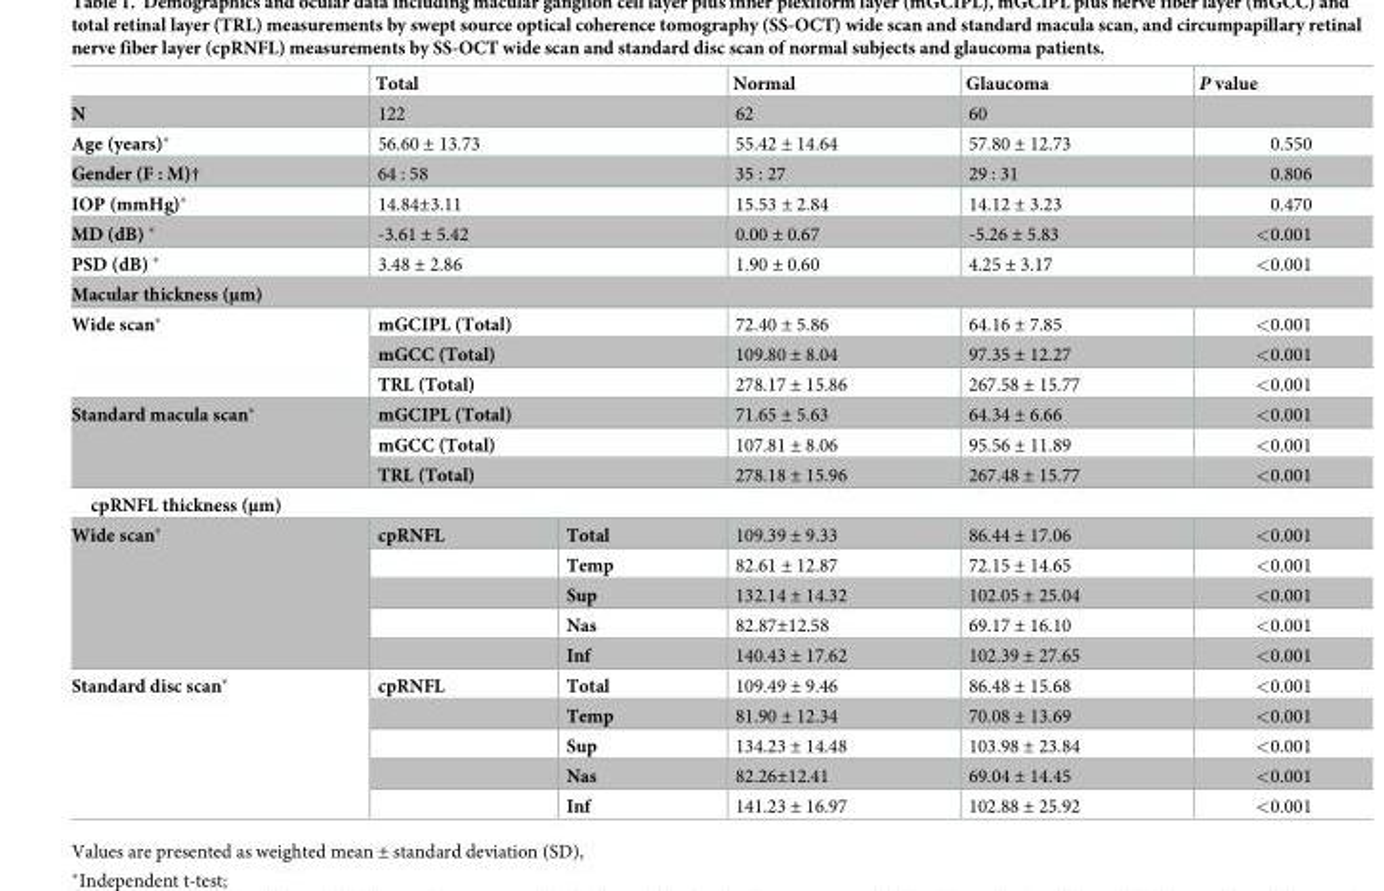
<table><thead><tr><td></td><td colspan="2">Total</td><td>Normal</td><td>Glaucoma</td><td>P value</td></tr></thead><tbody><tr><td>N</td><td colspan="2">122</td><td>62</td><td>60</td><td></td></tr><tr><td>Age (years)*</td><td colspan="2">56.60 ± 13.73</td><td>55.42 ± 14.64</td><td>57.80 ± 12.73</td><td>0.550</td></tr><tr><td>Gender (F : M)†</td><td colspan="2">64 : 58</td><td>35 : 27</td><td>29 : 31</td><td>0.806</td></tr><tr><td>IOP (mmHg)*</td><td colspan="2">14.84±3.11</td><td>15.53 ± 2.84</td><td>14.12 ± 3.23</td><td>0.470</td></tr><tr><td>MD (dB) *</td><td colspan="2">-3.61 ± 5.42</td><td>0.00 ± 0.67</td><td>-5.26 ± 5.83</td><td>&lt;0.001</td></tr><tr><td>PSD (dB) *</td><td colspan="2">3.48 ± 2.86</td><td>1.90 ± 0.60</td><td>4.25 ± 3.17</td><td>&lt;0.001</td></tr><tr><td colspan="6">Macular thickness (μm)</td></tr><tr><td rowspan="3">Wide scan*</td><td colspan="2">mGCIPL (Total)</td><td>72.40 ± 5.86</td><td>64.16 ± 7.85</td><td>&lt;0.001</td></tr><tr><td colspan="2">mGCC (Total)</td><td>109.80 ± 8.04</td><td>97.35 ± 12.27</td><td>&lt;0.001</td></tr><tr><td colspan="2">TRL (Total)</td><td>278.17 ± 15.86</td><td>267.58 ± 15.77</td><td>&lt;0.001</td></tr><tr><td rowspan="3">Standard macula scan*</td><td colspan="2">mGCIPL (Total)</td><td>71.65 ± 5.63</td><td>64.34 ± 6.66</td><td>&lt;0.001</td></tr><tr><td colspan="2">mGCC (Total)</td><td>107.81 ± 8.06</td><td>95.56 ± 11.89</td><td>&lt;0.001</td></tr><tr><td colspan="2">TRL (Total)</td><td>278.18 ± 15.96</td><td>267.48 ± 15.77</td><td>&lt;0.001</td></tr><tr><td colspan="6">cpRNFL thickness (μm)</td></tr><tr><td rowspan="5">Wide scan*</td><td>cpRNFL</td><td>Total</td><td>109.39 ± 9.33</td><td>86.44 ± 17.06</td><td>&lt;0.001</td></tr><tr><td></td><td>Temp</td><td>82.61 ± 12.87</td><td>72.15 ± 14.65</td><td>&lt;0.001</td></tr><tr><td></td><td>Sup</td><td>132.14 ± 14.32</td><td>102.05 ± 25.04</td><td>&lt;0.001</td></tr><tr><td></td><td>Nas</td><td>82.87±12.58</td><td>69.17 ± 16.10</td><td>&lt;0.001</td></tr><tr><td></td><td>Inf</td><td>140.43 ± 17.62</td><td>102.39 ± 27.65</td><td>&lt;0.001</td></tr><tr><td rowspan="5">Standard disc scan*</td><td>cpRNFL</td><td>Total</td><td>109.49 ± 9.46</td><td>86.48 ± 15.68</td><td>&lt;0.001</td></tr><tr><td></td><td>Temp</td><td>81.90 ± 12.34</td><td>70.08 ± 13.69</td><td>&lt;0.001</td></tr><tr><td></td><td>Sup</td><td>134.23 ± 14.48</td><td>103.98 ± 23.84</td><td>&lt;0.001</td></tr><tr><td></td><td>Nas</td><td>82.26±12.41</td><td>69.04 ± 14.45</td><td>&lt;0.001</td></tr><tr><td></td><td>Inf</td><td>141.23 ± 16.97</td><td>102.88 ± 25.92</td><td>&lt;0.001</td></tr></tbody></table>